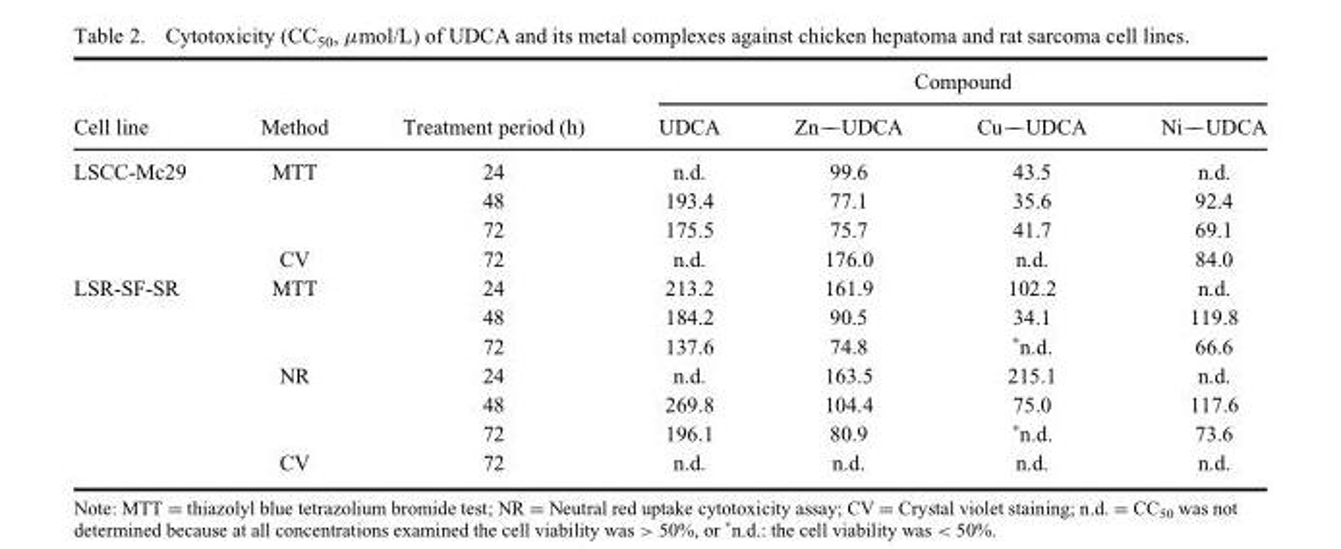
<table><thead><tr><td rowspan="2">Cell line</td><td rowspan="2">Method</td><td rowspan="2">Treatment period (h)</td><td colspan="4">Compound</td></tr><tr><td>UDCA</td><td>Zn��UDCA</td><td>Cu��UDCA</td><td>Ni��UDCA</td></tr></thead><tbody><tr><td rowspan="4">LSCC-Mc29</td><td>MTT</td><td>24</td><td>n.d.</td><td>99.6</td><td>43.5</td><td>n.d.</td></tr><tr><td></td><td>48</td><td>193.4</td><td>77.1</td><td>35.6</td><td>92.4</td></tr><tr><td></td><td>72</td><td>175.5</td><td>75.7</td><td>41.7</td><td>69.1</td></tr><tr><td>CV</td><td>72</td><td>n.d.</td><td>176.0</td><td>n.d.</td><td>84.0</td></tr><tr><td rowspan="7">LSR-SF-SR</td><td>MTT</td><td>24</td><td>213.2</td><td>161.9</td><td>102.2</td><td>n.d.</td></tr><tr><td></td><td>48</td><td>184.2</td><td>90.5</td><td>34.1</td><td>119.8</td></tr><tr><td></td><td>72</td><td>137.6</td><td>74.8</td><td>*n.d.</td><td>66.6</td></tr><tr><td>NR</td><td>24</td><td>n.d.</td><td>163.5</td><td>215.1</td><td>n.d.</td></tr><tr><td></td><td>48</td><td>269.8</td><td>104.4</td><td>75.0</td><td>117.6</td></tr><tr><td></td><td>72</td><td>196.1</td><td>80.9</td><td>*n.d.</td><td>73.6</td></tr><tr><td>CV</td><td>72</td><td>n.d.</td><td>n.d.</td><td>n.d.</td><td>n.d.</td></tr></tbody></table>